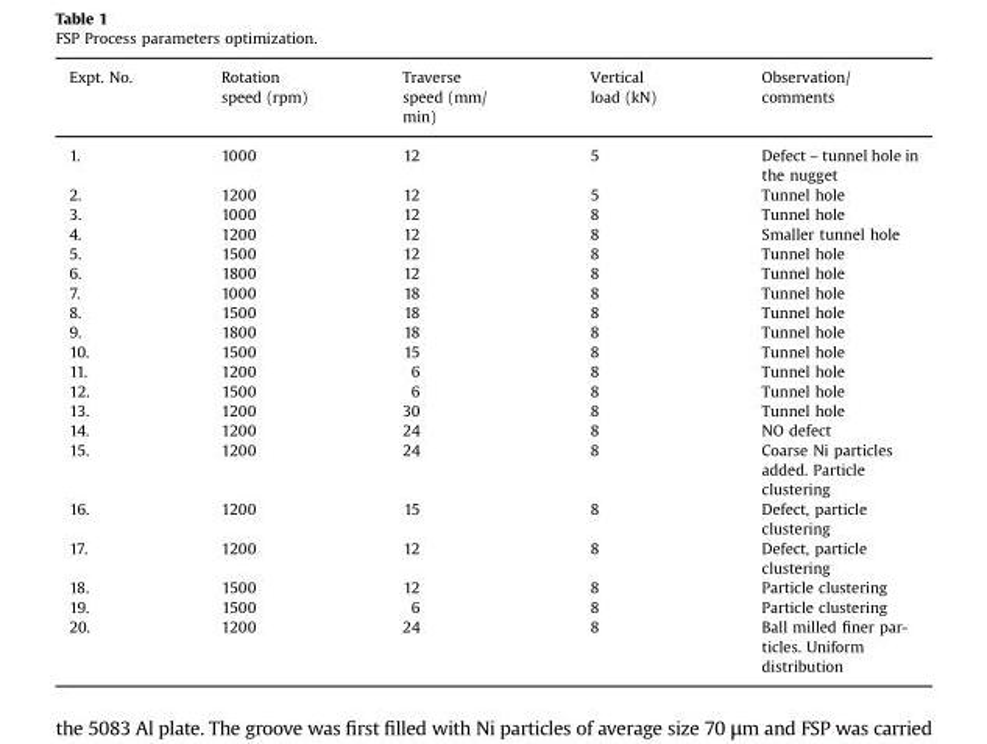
<table><thead><tr><td>Expt. No.</td><td>Rotation speed (rpm)</td><td>Traverse speed (mm/ min)</td><td>Vertical load (kN)</td><td>Observation/ comments</td></tr></thead><tbody><tr><td>1.</td><td>1000</td><td>12</td><td>5</td><td>Defect – tunnel hole in the nugget</td></tr><tr><td>2.</td><td>1200</td><td>12</td><td>5</td><td>Tunnel hole</td></tr><tr><td>3.</td><td>1000</td><td>12</td><td>8</td><td>Tunnel hole</td></tr><tr><td>4.</td><td>1200</td><td>12</td><td>8</td><td>Smaller tunnel hole</td></tr><tr><td>5.</td><td>1500</td><td>12</td><td>8</td><td>Tunnel hole</td></tr><tr><td>6.</td><td>1800</td><td>12</td><td>8</td><td>Tunnel hole</td></tr><tr><td>7.</td><td>1000</td><td>18</td><td>8</td><td>Tunnel hole</td></tr><tr><td>8.</td><td>1500</td><td>18</td><td>8</td><td>Tunnel hole</td></tr><tr><td>9.</td><td>1800</td><td>18</td><td>8</td><td>Tunnel hole</td></tr><tr><td>10.</td><td>1500</td><td>15</td><td>8</td><td>Tunnel hole</td></tr><tr><td>11.</td><td>1200</td><td>6</td><td>8</td><td>Tunnel hole</td></tr><tr><td>12.</td><td>1500</td><td>6</td><td>8</td><td>Tunnel hole</td></tr><tr><td>13.</td><td>1200</td><td>30</td><td>8</td><td>Tunnel hole</td></tr><tr><td>14.</td><td>1200</td><td>24</td><td>8</td><td>NO defect</td></tr><tr><td>15.</td><td>1200</td><td>24</td><td>8</td><td>Coarse Ni particles added. Particle clustering</td></tr><tr><td>16.</td><td>1200</td><td>15</td><td>8</td><td>Defect, particle clustering</td></tr><tr><td>17.</td><td>1200</td><td>12</td><td>8</td><td>Defect, particle clustering</td></tr><tr><td>18.</td><td>1500</td><td>12</td><td>8</td><td>Particle clustering</td></tr><tr><td>19.</td><td>1500</td><td>6</td><td>8</td><td>Particle clustering</td></tr><tr><td>20.</td><td>1200</td><td>24</td><td>8</td><td>Ball milled finer par- ticles. Uniform distribution</td></tr></tbody></table>